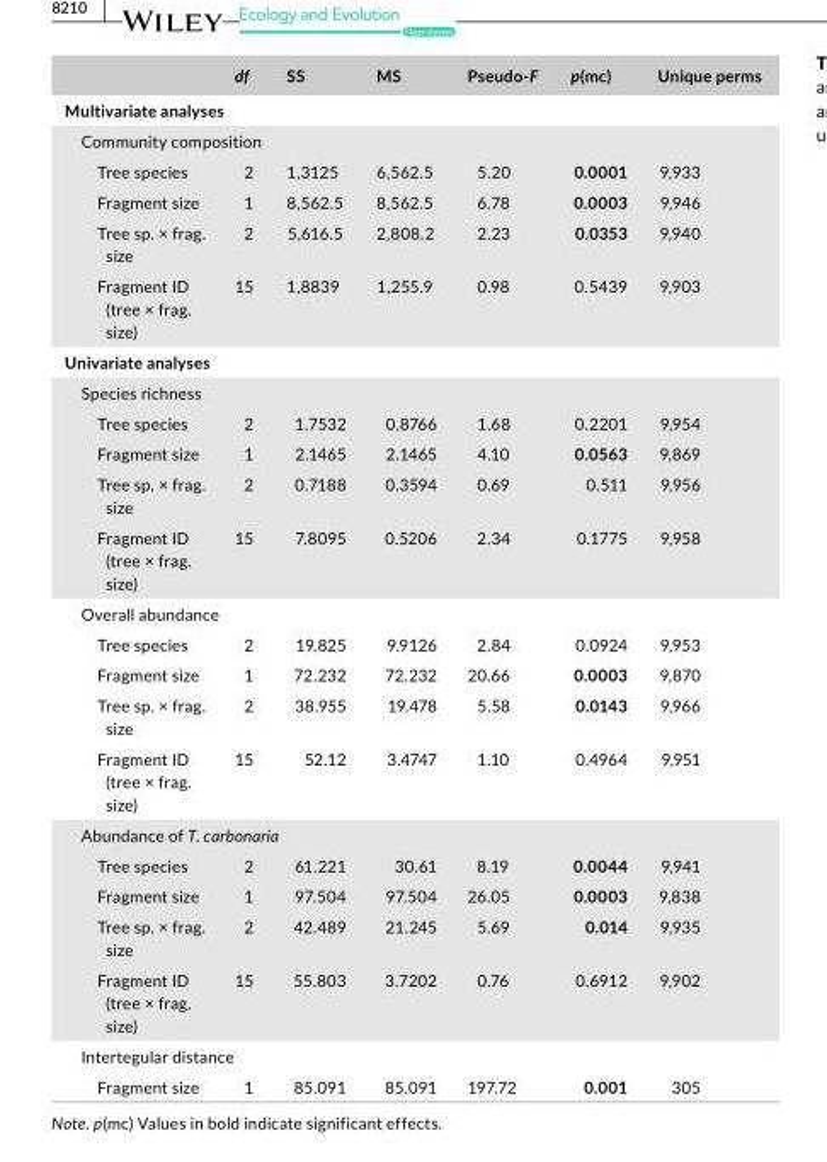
<table><thead><tr><td></td><td>df</td><td>SS</td><td>MS</td><td>Pseudo- F</td><td>p(mc)</td><td>Unique perms</td></tr></thead><tbody><tr><td colspan="7">Multivariate analyses</td></tr><tr><td colspan="7">Community composition</td></tr><tr><td>Tree species</td><td>2</td><td>1,3125</td><td>6,562.5</td><td>5.20</td><td>0.0001</td><td>9,933</td></tr><tr><td>Fragment size</td><td>1</td><td>8,562.5</td><td>8,562.5</td><td>6.78</td><td>0.0003</td><td>9,946</td></tr><tr><td>Tree sp. × frag. size</td><td>2</td><td>5,616.5</td><td>2,808.2</td><td>2.23</td><td>0.0353</td><td>9,940</td></tr><tr><td>Fragment ID (tree × frag. size)</td><td>15</td><td>1,8839</td><td>1,255.9</td><td>0.98</td><td>0.5439</td><td>9,903</td></tr><tr><td colspan="7">Univariate analyses</td></tr><tr><td colspan="7">Species richness</td></tr><tr><td>Tree species</td><td>2</td><td>1.7532</td><td>0.8766</td><td>1.68</td><td>0.2201</td><td>9,954</td></tr><tr><td>Fragment size</td><td>1</td><td>2.1465</td><td>2.1465</td><td>4.10</td><td>0.0563</td><td>9,869</td></tr><tr><td>Tree sp. × frag. size</td><td>2</td><td>0.7188</td><td>0.3594</td><td>0.69</td><td>0.511</td><td>9,956</td></tr><tr><td>Fragment ID (tree × frag. size)</td><td>15</td><td>7.8095</td><td>0.5206</td><td>2.34</td><td>0.1775</td><td>9,958</td></tr><tr><td colspan="7">Overall abundance</td></tr><tr><td>Tree species</td><td>2</td><td>19.825</td><td>9.9126</td><td>2.84</td><td>0.0924</td><td>9,953</td></tr><tr><td>Fragment size</td><td>1</td><td>72.232</td><td>72.232</td><td>20.66</td><td>0.0003</td><td>9,870</td></tr><tr><td>Tree sp. × frag. size</td><td>2</td><td>38.955</td><td>19.478</td><td>5.58</td><td>0.0143</td><td>9,966</td></tr><tr><td>Fragment ID (tree × frag. size)</td><td>15</td><td>52.12</td><td>3.4747</td><td>1.10</td><td>0.4964</td><td>9,951</td></tr><tr><td colspan="7">Abundance of T. carbonaria</td></tr><tr><td>Tree species</td><td>2</td><td>61.221</td><td>30.61</td><td>8.19</td><td>0.0044</td><td>9,941</td></tr><tr><td>Fragment size</td><td>1</td><td>97.504</td><td>97.504</td><td>26.05</td><td>0.0003</td><td>9,838</td></tr><tr><td>Tree sp. × frag. size</td><td>2</td><td>42.489</td><td>21.245</td><td>5.69</td><td>0.014</td><td>9,935</td></tr><tr><td>Fragment ID (tree × frag. size)</td><td>15</td><td>55.803</td><td>3.7202</td><td>0.76</td><td>0.6912</td><td>9,902</td></tr><tr><td colspan="7">Intertegular distance</td></tr><tr><td>Fragment size</td><td>1</td><td>85.091</td><td>85.091</td><td>197.72</td><td>0.001</td><td>305</td></tr></tbody></table>